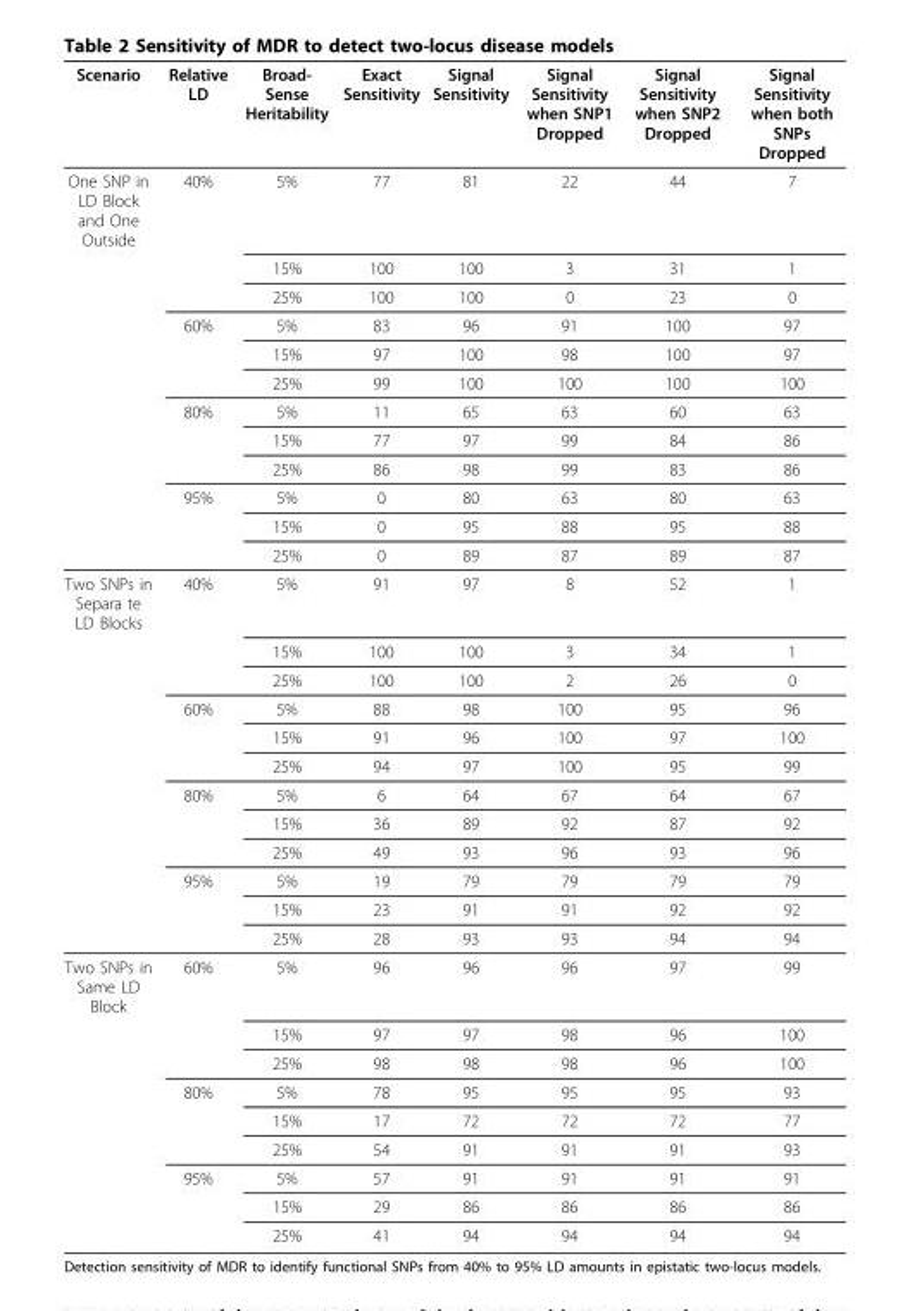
<table><thead><tr><td>Scenario</td><td>Relative LD</td><td>Broad- Sense Heritability</td><td>Exact Sensitivity</td><td>Signal Sensitivity</td><td>Signal Sensitivity when SNP1 Dropped</td><td>Signal Sensitivity when SNP2 Dropped</td><td>Signal Sensitivity when both SNPs Dropped</td></tr></thead><tbody><tr><td rowspan="12">One SNP in LD Block and One Outside</td><td>40%</td><td>5%</td><td>77</td><td>81</td><td>22</td><td>44</td><td>7</td></tr><tr><td></td><td>15%</td><td>100</td><td>100</td><td>3</td><td>31</td><td>1</td></tr><tr><td></td><td>25%</td><td>100</td><td>100</td><td>0</td><td>23</td><td>0</td></tr><tr><td>60%</td><td>5%</td><td>83</td><td>96</td><td>91</td><td>100</td><td>97</td></tr><tr><td></td><td>15%</td><td>97</td><td>100</td><td>98</td><td>100</td><td>97</td></tr><tr><td></td><td>25%</td><td>99</td><td>100</td><td>100</td><td>100</td><td>100</td></tr><tr><td>80%</td><td>5%</td><td>11</td><td>65</td><td>63</td><td>60</td><td>63</td></tr><tr><td></td><td>15%</td><td>77</td><td>97</td><td>99</td><td>84</td><td>86</td></tr><tr><td></td><td>25%</td><td>86</td><td>98</td><td>99</td><td>83</td><td>86</td></tr><tr><td>95%</td><td>5%</td><td>0</td><td>80</td><td>63</td><td>80</td><td>63</td></tr><tr><td></td><td>15%</td><td>0</td><td>95</td><td>88</td><td>95</td><td>88</td></tr><tr><td></td><td>25%</td><td>0</td><td>89</td><td>87</td><td>89</td><td>87</td></tr><tr><td rowspan="12">Two SNPs in Separa te LD Blocks</td><td>40%</td><td>5%</td><td>91</td><td>97</td><td>8</td><td>52</td><td>1</td></tr><tr><td></td><td>15%</td><td>100</td><td>100</td><td>3</td><td>34</td><td>1</td></tr><tr><td></td><td>25%</td><td>100</td><td>100</td><td>2</td><td>26</td><td>0</td></tr><tr><td>60%</td><td>5%</td><td>88</td><td>98</td><td>100</td><td>95</td><td>96</td></tr><tr><td></td><td>15%</td><td>91</td><td>96</td><td>100</td><td>97</td><td>100</td></tr><tr><td></td><td>25%</td><td>94</td><td>97</td><td>100</td><td>95</td><td>99</td></tr><tr><td>80%</td><td>5%</td><td>6</td><td>64</td><td>67</td><td>64</td><td>67</td></tr><tr><td></td><td>15%</td><td>36</td><td>89</td><td>92</td><td>87</td><td>92</td></tr><tr><td></td><td>25%</td><td>49</td><td>93</td><td>96</td><td>93</td><td>96</td></tr><tr><td>95%</td><td>5%</td><td>19</td><td>79</td><td>79</td><td>79</td><td>79</td></tr><tr><td></td><td>15%</td><td>23</td><td>91</td><td>91</td><td>92</td><td>92</td></tr><tr><td></td><td>25%</td><td>28</td><td>93</td><td>93</td><td>94</td><td>94</td></tr><tr><td rowspan="9">Two SNPs in Same LD Block</td><td>60%</td><td>5%</td><td>96</td><td>96</td><td>96</td><td>97</td><td>99</td></tr><tr><td></td><td>15%</td><td>97</td><td>97</td><td>98</td><td>96</td><td>100</td></tr><tr><td></td><td>25%</td><td>98</td><td>98</td><td>98</td><td>96</td><td>100</td></tr><tr><td>80%</td><td>5%</td><td>78</td><td>95</td><td>95</td><td>95</td><td>93</td></tr><tr><td></td><td>15%</td><td>17</td><td>72</td><td>72</td><td>72</td><td>77</td></tr><tr><td></td><td>25%</td><td>54</td><td>91</td><td>91</td><td>91</td><td>93</td></tr><tr><td>95%</td><td>5%</td><td>57</td><td>91</td><td>91</td><td>91</td><td>91</td></tr><tr><td></td><td>15%</td><td>29</td><td>86</td><td>86</td><td>86</td><td>86</td></tr><tr><td></td><td>25%</td><td>41</td><td>94</td><td>94</td><td>94</td><td>94</td></tr></tbody></table>